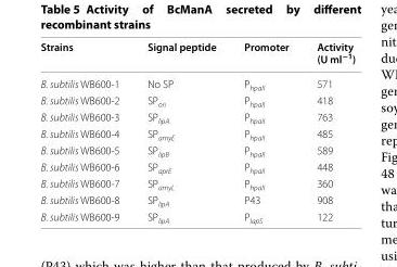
<table><thead><tr><td>Strains</td><td>Signal peptide</td><td>Promoter</td><td>Activity (U ml<sup>−1</sup>)</td></tr></thead><tbody><tr><td>B. subtilis WB600-1</td><td>No SP</td><td>P<sub>hpaII</sub></td><td>571</td></tr><tr><td>B. subtilis WB600-2</td><td>SP<sub>ori</sub></td><td>P<sub>hpaII</sub></td><td>418</td></tr><tr><td>B. subtilis WB600-3</td><td>SP<sub>lipA</sub></td><td>P<sub>hpaII</sub></td><td>763</td></tr><tr><td>B. subtilis WB600-4</td><td>SP<sub>amyE</sub></td><td>P<sub>hpaII</sub></td><td>485</td></tr><tr><td>B. subtilis WB600-5</td><td>SP<sub>lipB</sub></td><td>P<sub>hpaII</sub></td><td>589</td></tr><tr><td>B. subtilis WB600-6</td><td>SP<sub>aprE</sub></td><td>P<sub>hpaII</sub></td><td>448</td></tr><tr><td>B. subtilis WB600-7</td><td>SP<sub>amyL</sub></td><td>P<sub>hpaII</sub></td><td>360</td></tr><tr><td>B. subtilis WB600-8</td><td>SP<sub>lipA</sub></td><td>P43</td><td>908</td></tr><tr><td>B. subtilis WB600-9</td><td>SP<sub>lipA</sub></td><td>P<sub>lapS</sub></td><td>122</td></tr></tbody></table>